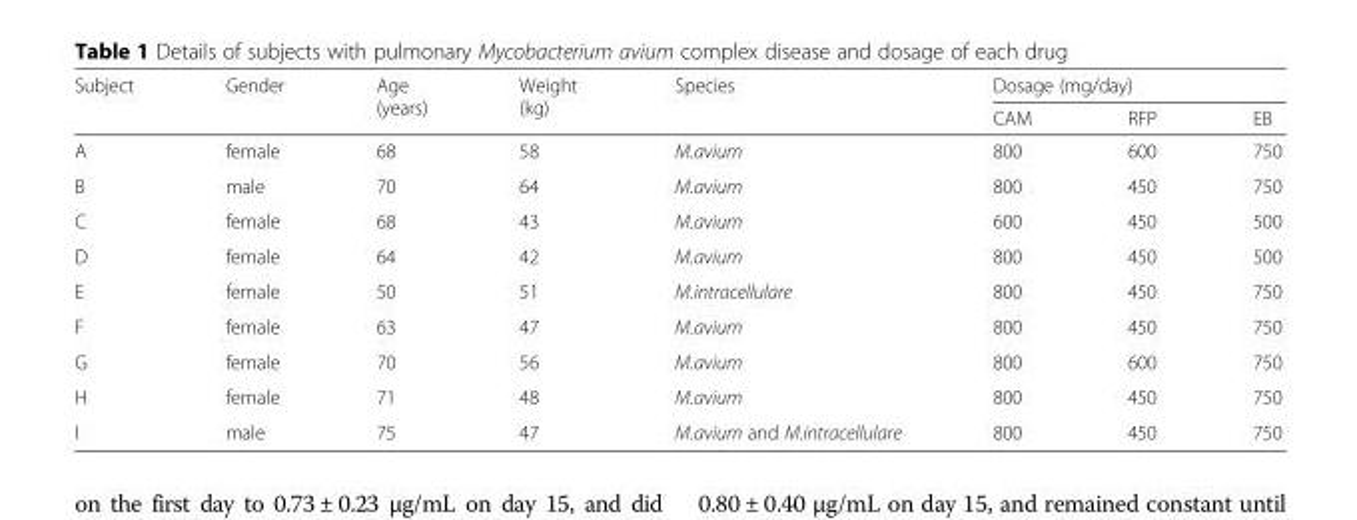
<table><thead><tr><td rowspan="2">Subject</td><td rowspan="2">Gender</td><td rowspan="2">Age (years)</td><td rowspan="2">Weight (kg)</td><td rowspan="2">Species</td><td colspan="3">Dosage (mg/day)</td></tr><tr><td>CAM</td><td>RFP</td><td>EB</td></tr></thead><tbody><tr><td>A</td><td>female</td><td>68</td><td>58</td><td>M.avium</td><td>800</td><td>600</td><td>750</td></tr><tr><td>B</td><td>male</td><td>70</td><td>64</td><td>M.avium</td><td>800</td><td>450</td><td>750</td></tr><tr><td>C</td><td>female</td><td>68</td><td>43</td><td>M.avium</td><td>600</td><td>450</td><td>500</td></tr><tr><td>D</td><td>female</td><td>64</td><td>42</td><td>M.avium</td><td>800</td><td>450</td><td>500</td></tr><tr><td>E</td><td>female</td><td>50</td><td>51</td><td>M.intracellulare</td><td>800</td><td>450</td><td>750</td></tr><tr><td>F</td><td>female</td><td>63</td><td>47</td><td>M.avium</td><td>800</td><td>450</td><td>750</td></tr><tr><td>G</td><td>female</td><td>70</td><td>56</td><td>M.avium</td><td>800</td><td>600</td><td>750</td></tr><tr><td>H</td><td>female</td><td>71</td><td>48</td><td>M.avium</td><td>800</td><td>450</td><td>750</td></tr><tr><td>I</td><td>male</td><td>75</td><td>47</td><td>M.avium and M.intracellulare</td><td>800</td><td>450</td><td>750</td></tr></tbody></table>